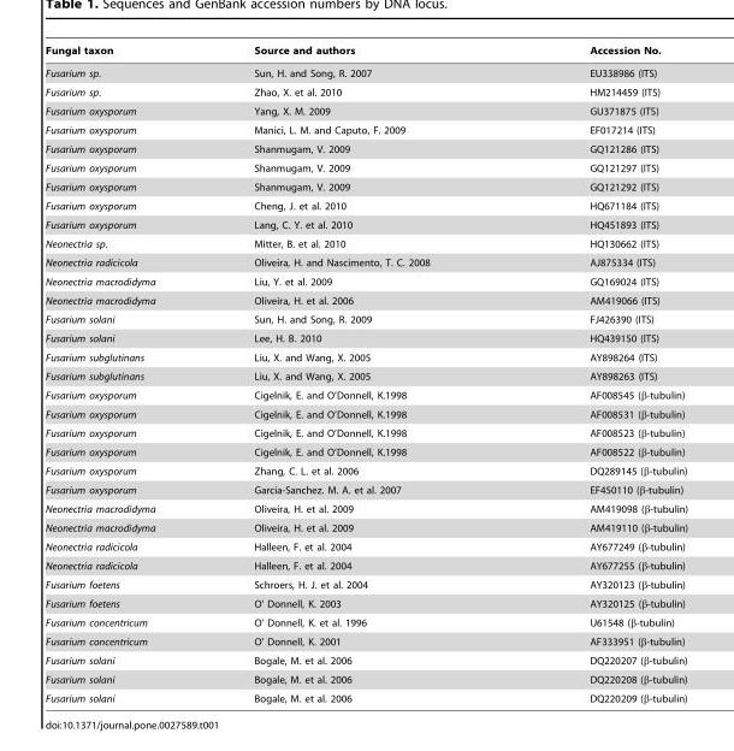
<table><thead><tr><td>Fungal taxon</td><td>Source and authors</td><td>Accession No.</td></tr></thead><tbody><tr><td>Fusarium sp.</td><td>Sun, H. and Song, R. 2007</td><td>EU338986 (ITS)</td></tr><tr><td>Fusarium sp.</td><td>Zhao, X. et al. 2010</td><td>HM214459 (ITS)</td></tr><tr><td>Fusarium oxysporum</td><td>Yang, X. M. 2009</td><td>GU371875 (ITS)</td></tr><tr><td>Fusarium oxysporum</td><td>Manici, L. M. and Caputo, F. 2009</td><td>EF017214 (ITS)</td></tr><tr><td>Fusarium oxysporum</td><td>Shanmugam, V. 2009</td><td>GQ121286 (ITS)</td></tr><tr><td>Fusarium oxysporum</td><td>Shanmugam, V. 2009</td><td>GQ121297 (ITS)</td></tr><tr><td>Fusarium oxysporum</td><td>Shanmugam, V. 2009</td><td>GQ121292 (ITS)</td></tr><tr><td>Fusarium oxysporum</td><td>Cheng, J. et al. 2010</td><td>HQ671184 (ITS)</td></tr><tr><td>Fusarium oxysporum</td><td>Lang, C. Y. et al. 2010</td><td>HQ451893 (ITS)</td></tr><tr><td>Neonectria sp.</td><td>Mitter, B. et al. 2010</td><td>HQ130662 (ITS)</td></tr><tr><td>Neonectria radicicola</td><td>Oliveira, H. and Nascimento, T. C. 2008</td><td>AJ875334 (ITS)</td></tr><tr><td>Neonectria macrodidyma</td><td>Liu, Y. et al. 2009</td><td>GQ169024 (ITS)</td></tr><tr><td>Neonectria macrodidyma</td><td>Oliveira, H. et al. 2006</td><td>AM419066 (ITS)</td></tr><tr><td>Fusarium solani</td><td>Sun, H. and Song, R. 2009</td><td>FJ426390 (ITS)</td></tr><tr><td>Fusarium solani</td><td>Lee, H. B. 2010</td><td>HQ439150 (ITS)</td></tr><tr><td>Fusarium subglutinans</td><td>Liu, X. and Wang, X. 2005</td><td>AY898264 (ITS)</td></tr><tr><td>Fusarium subglutinans</td><td>Liu, X. and Wang, X. 2005</td><td>AY898263 (ITS)</td></tr><tr><td>Fusarium oxysporum</td><td>Cigelnik, E. and O’Donnell, K.1998</td><td>AF008545 (β-tubulin)</td></tr><tr><td>Fusarium oxysporum</td><td>Cigelnik, E. and O’Donnell, K.1998</td><td>AF008531 (β-tubulin)</td></tr><tr><td>Fusarium oxysporum</td><td>Cigelnik, E. and O’Donnell, K.1998</td><td>AF008523 (β-tubulin)</td></tr><tr><td>Fusarium oxysporum</td><td>Cigelnik, E. and O’Donnell, K.1998</td><td>AF008522 (β-tubulin)</td></tr><tr><td>Fusarium oxysporum</td><td>Zhang, C. L. et al. 2006</td><td>DQ289145 (β-tubulin)</td></tr><tr><td>Fusarium oxysporum</td><td>Garcia-Sanchez. M. A. et al. 2007</td><td>EF450110 (β-tubulin)</td></tr><tr><td>Neonectria macrodidyma</td><td>Oliveira, H. et al. 2009</td><td>AM419098 (β-tubulin)</td></tr><tr><td>Neonectria macrodidyma</td><td>Oliveira, H. et al. 2009</td><td>AM419110 (β-tubulin)</td></tr><tr><td>Neonectria radicicola</td><td>Halleen, F. et al. 2004</td><td>AY677249 (β-tubulin)</td></tr><tr><td>Neonectria radicicola</td><td>Halleen, F. et al. 2004</td><td>AY677255 (β-tubulin)</td></tr><tr><td>Fusarium foetens</td><td>Schroers, H. J. et al. 2004</td><td>AY320123 (β-tubulin)</td></tr><tr><td>Fusarium foetens</td><td>O’ Donnell, K. 2003</td><td>AY320125 (β-tubulin)</td></tr><tr><td>Fusarium concentricum</td><td>O’ Donnell, K. et al. 1996</td><td>U61548 (β-tubulin)</td></tr><tr><td>Fusarium concentricum</td><td>O’ Donnell, K. 2001</td><td>AF333951 (β-tubulin)</td></tr><tr><td>Fusarium solani</td><td>Bogale, M. et al. 2006</td><td>DQ220207 (β-tubulin)</td></tr><tr><td>Fusarium solani</td><td>Bogale, M. et al. 2006</td><td>DQ220208 (β-tubulin)</td></tr><tr><td>Fusarium solani</td><td>Bogale, M. et al. 2006</td><td>DQ220209 (β-tubulin)</td></tr></tbody></table>